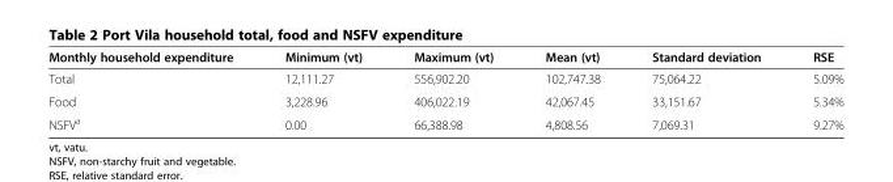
<table><thead><tr><td>Monthly household expenditure</td><td>Minimum (vt)</td><td>Maximum (vt)</td><td>Mean (vt)</td><td>Standard deviation</td><td>RSE</td></tr></thead><tbody><tr><td>Total</td><td>12,111.27</td><td>556,902.20</td><td>102,747.38</td><td>75,064.22</td><td>5.09%</td></tr><tr><td>Food</td><td>3,228.96</td><td>406,022.19</td><td>42,067.45</td><td>33,151.67</td><td>5.34%</td></tr><tr><td>NSFV<sup>a</sup></td><td>0.00</td><td>66,388.98</td><td>4,808.56</td><td>7,069.31</td><td>9.27%</td></tr></tbody></table>